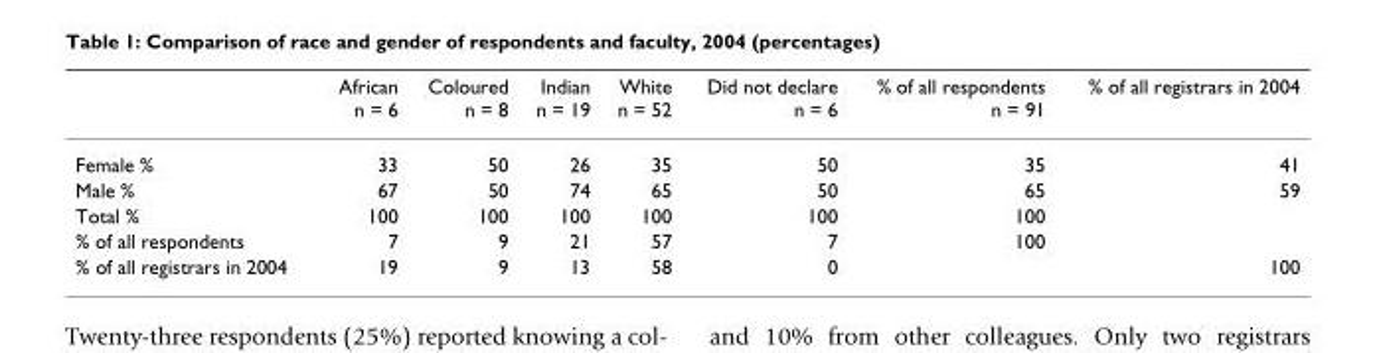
<table><thead><tr><td></td><td>African n = 6</td><td>Coloured n = 8</td><td>Indian n = 19</td><td>White n = 52</td><td>Did not declare n = 6</td><td>% of all respondents n = 91</td><td>% of all registrars in 2004</td></tr></thead><tbody><tr><td>Female %</td><td>33</td><td>50</td><td>26</td><td>35</td><td>50</td><td>35</td><td>41</td></tr><tr><td>Male %</td><td>67</td><td>50</td><td>74</td><td>65</td><td>50</td><td>65</td><td>59</td></tr><tr><td>Total %</td><td>100</td><td>100</td><td>100</td><td>100</td><td>100</td><td>100</td><td></td></tr><tr><td>% of all respondents</td><td>7</td><td>9</td><td>21</td><td>57</td><td>7</td><td>100</td><td></td></tr><tr><td>% of all registrars in 2004</td><td>19</td><td>9</td><td>13</td><td>58</td><td>0</td><td></td><td>100</td></tr></tbody></table>